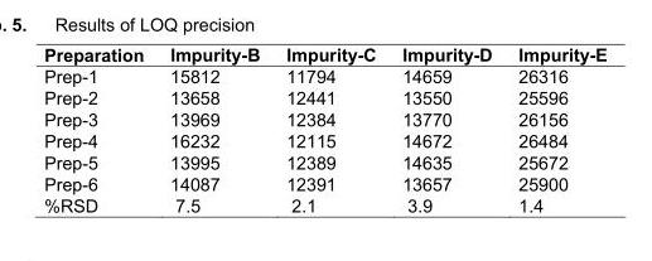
<table><thead><tr><td>Preparation</td><td>Impurity-B</td><td>Impurity-C</td><td>Impurity-D</td><td>Impurity-E</td></tr></thead><tbody><tr><td>Prep-1</td><td>15812</td><td>11794</td><td>14659</td><td>26316</td></tr><tr><td>Prep-2</td><td>13658</td><td>12441</td><td>13550</td><td>25596</td></tr><tr><td>Prep-3</td><td>13969</td><td>12384</td><td>13770</td><td>26156</td></tr><tr><td>Prep-4</td><td>16232</td><td>12115</td><td>14672</td><td>26484</td></tr><tr><td>Prep-5</td><td>13995</td><td>12389</td><td>14635</td><td>25672</td></tr><tr><td>Prep-6</td><td>14087</td><td>12391</td><td>13657</td><td>25900</td></tr><tr><td>%RSD</td><td>7.5</td><td>2.1</td><td>3.9</td><td>1.4</td></tr></tbody></table>